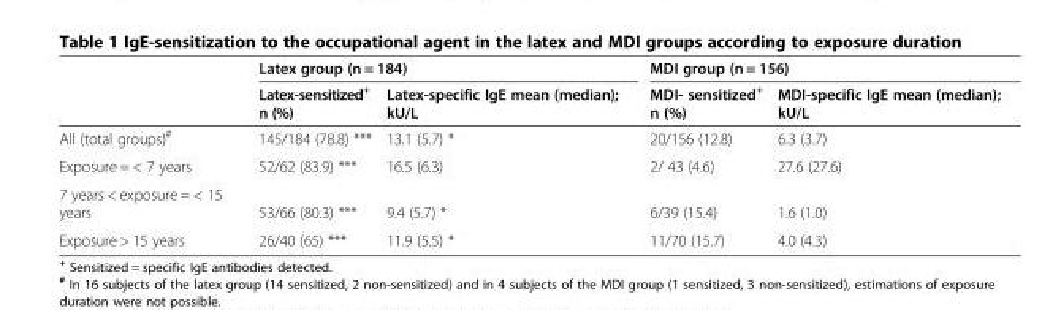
<table><thead><tr><td rowspan="2"></td><td colspan="2">Latex group (n = 184)</td><td colspan="2">MDI group (n = 156)</td></tr><tr><td>Latex-sensitized<sup>+</sup> n (%)</td><td>Latex-specific IgE mean (median); kU/L</td><td>MDI- sensitized<sup>+</sup> n (%)</td><td>MDI-specific IgE mean (median); kU/L</td></tr></thead><tbody><tr><td>All (total groups)<sup>#</sup></td><td>145/184 (78.8) ***</td><td>13.1 (5.7) *</td><td>20/156 (12.8)</td><td>6.3 (3.7)</td></tr><tr><td>Exposure = &lt; 7 years</td><td>52/62 (83.9) ***</td><td>16.5 (6.3)</td><td>2/ 43 (4.6)</td><td>27.6 (27.6)</td></tr><tr><td>7 years &lt; exposure = &lt; 15 years</td><td>53/66 (80.3) ***</td><td>9.4 (5.7) *</td><td>6/39 (15.4)</td><td>1.6 (1.0)</td></tr><tr><td>Exposure &gt; 15 years</td><td>26/40 (65) ***</td><td>11.9 (5.5) *</td><td>11/70 (15.7)</td><td>4.0 (4.3)</td></tr></tbody></table>